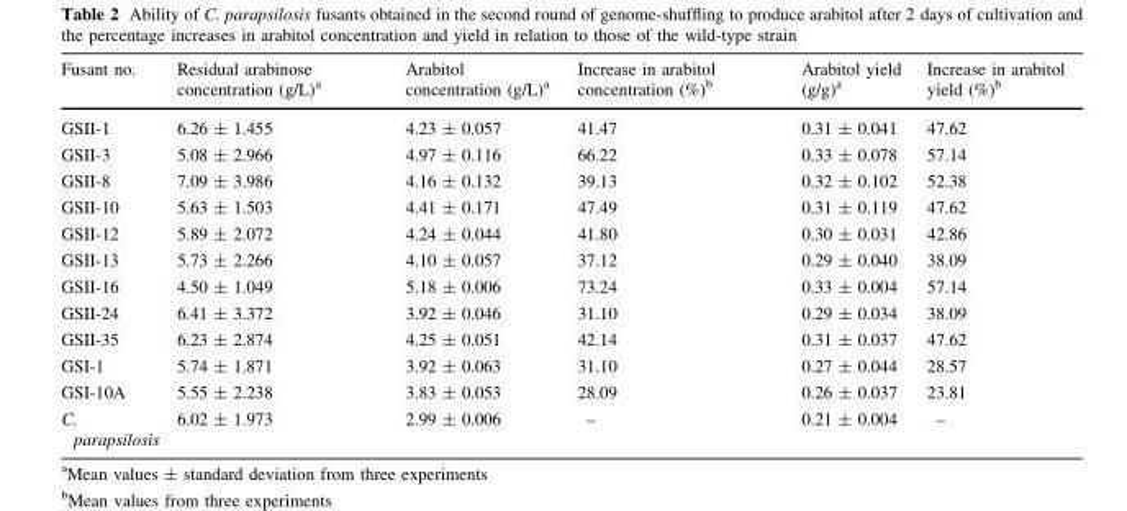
<table><thead><tr><td>Fusant no.</td><td>Residual arabinose concentration (g/L)<sup>a</sup></td><td>Arabitol concentration (g/L)<sup>a</sup></td><td>Increase in arabitol concentration (%)<sup>b</sup></td><td>Arabitol yield (g/g)<sup>a</sup></td><td>Increase in arabitol yield (%)<sup>b</sup></td></tr></thead><tbody><tr><td>GSII-1</td><td>6.26 ± 1.455</td><td>4.23 ± 0.057</td><td>41.47</td><td>0.31 ± 0.041</td><td>47.62</td></tr><tr><td>GSII-3</td><td>5.08 ± 2.966</td><td>4.97 ± 0.116</td><td>66.22</td><td>0.33 ± 0.078</td><td>57.14</td></tr><tr><td>GSII-8</td><td>7.09 ± 3.986</td><td>4.16 ± 0.132</td><td>39.13</td><td>0.32 ± 0.102</td><td>52.38</td></tr><tr><td>GSII-10</td><td>5.63 ± 1.503</td><td>4.41 ± 0.171</td><td>47.49</td><td>0.31 ± 0.119</td><td>47.62</td></tr><tr><td>GSII-12</td><td>5.89 ± 2.072</td><td>4.24 ± 0.044</td><td>41.80</td><td>0.30 ± 0.031</td><td>42.86</td></tr><tr><td>GSII-13</td><td>5.73 ± 2.266</td><td>4.10 ± 0.057</td><td>37.12</td><td>0.29 ± 0.040</td><td>38.09</td></tr><tr><td>GSII-16</td><td>4.50 ± 1.049</td><td>5.18 ± 0.006</td><td>73.24</td><td>0.33 ± 0.004</td><td>57.14</td></tr><tr><td>GSII-24</td><td>6.41 ± 3.372</td><td>3.92 ± 0.046</td><td>31.10</td><td>0.29 ± 0.034</td><td>38.09</td></tr><tr><td>GSII-35</td><td>6.23 ± 2.874</td><td>4.25 ± 0.051</td><td>42.14</td><td>0.31 ± 0.037</td><td>47.62</td></tr><tr><td>GSI-1</td><td>5.74 ± 1.871</td><td>3.92 ± 0.063</td><td>31.10</td><td>0.27 ± 0.044</td><td>28.57</td></tr><tr><td>GSI-10A</td><td>5.55 ± 2.238</td><td>3.83 ± 0.053</td><td>28.09</td><td>0.26 ± 0.037</td><td>23.81</td></tr><tr><td>C. parapsilosis</td><td>6.02 ± 1.973</td><td>2.99 ± 0.006</td><td>–</td><td>0.21 ± 0.004</td><td>–</td></tr></tbody></table>